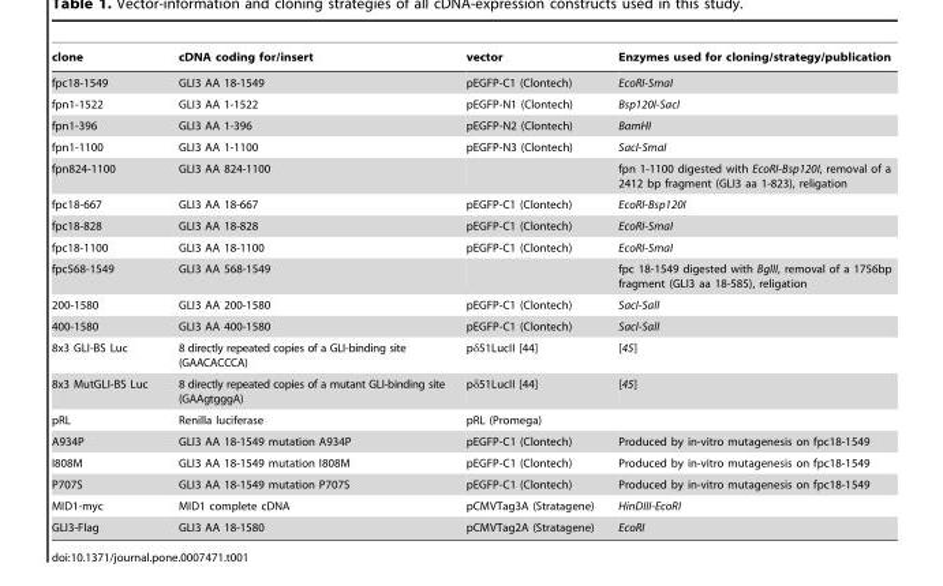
<table><thead><tr><td>clone</td><td>cDNA coding for/insert</td><td>vector</td><td>Enzymes used for cloning/strategy/publication</td></tr></thead><tbody><tr><td>fpc18-1549</td><td>GLI3 AA 18-1549</td><td>pEGFP-C1 (Clontech)</td><td>EcoRI-SmaI</td></tr><tr><td>fpn1-1522</td><td>GLI3 AA 1-1522</td><td>pEGFP-N1 (Clontech)</td><td>Bsp120I-SacI</td></tr><tr><td>fpn1-396</td><td>GLI3 AA 1-396</td><td>pEGFP-N2 (Clontech)</td><td>BamHI</td></tr><tr><td>fpn1-1100</td><td>GLI3 AA 1-1100</td><td>pEGFP-N3 (Clontech)</td><td>SacI-SmaI</td></tr><tr><td>fpn824-1100</td><td>GLI3 AA 824-1100</td><td></td><td>fpn 1-1100 digested with EcoRI-Bsp120I, removal of a 2412 bp fragment (GLI3 aa 1-823), religation</td></tr><tr><td>fpc18-667</td><td>GLI3 AA 18-667</td><td>pEGFP-C1 (Clontech)</td><td>EcoRI-Bsp120I</td></tr><tr><td>fpc18-828</td><td>GLI3 AA 18-828</td><td>pEGFP-C1 (Clontech)</td><td>EcoRI-SmaI</td></tr><tr><td>fpc18-1100</td><td>GLI3 AA 18-1100</td><td>pEGFP-C1 (Clontech)</td><td>EcoRI-SmaI</td></tr><tr><td>fpc568-1549</td><td>GLI3 AA 568-1549</td><td></td><td>fpc 18-1549 digested with BglII, removal of a 1756bp fragment (GLI3 aa 18-585), religation</td></tr><tr><td>200-1580</td><td>GLI3 AA 200-1580</td><td>pEGFP-C1 (Clontech)</td><td>SacI-SalI</td></tr><tr><td>400-1580</td><td>GLI3 AA 400-1580</td><td>pEGFP-C1 (Clontech)</td><td>SacI-SalI</td></tr><tr><td>8x3 GLI-BS Luc</td><td>8 directly repeated copies of a GLI-binding site (GAACACCCA)</td><td>pδ51LucII [44]</td><td>[45]</td></tr><tr><td>8x3 MutGLI-BS Luc</td><td>8 directly repeated copies of a mutant GLI-binding site (GAAgtgggA)</td><td>pδ51LucII [44]</td><td>[45]</td></tr><tr><td>pRL</td><td>Renilla luciferase</td><td>pRL (Promega)</td><td></td></tr><tr><td>A934P</td><td>GLI3 AA 18-1549 mutation A934P</td><td>pEGFP-C1 (Clontech)</td><td>Produced by in-vitro mutagenesis on fpc18-1549</td></tr><tr><td>I808M</td><td>GLI3 AA 18-1549 mutation I808M</td><td>pEGFP-C1 (Clontech)</td><td>Produced by in-vitro mutagenesis on fpc18-1549</td></tr><tr><td>P707S</td><td>GLI3 AA 18-1549 mutation P707S</td><td>pEGFP-C1 (Clontech)</td><td>Produced by in-vitro mutagenesis on fpc18-1549</td></tr><tr><td>MID1-myc</td><td>MID1 complete cDNA</td><td>pCMVTag3A (Stratagene)</td><td>HinDIII-EcoRI</td></tr><tr><td>GLI3-Flag</td><td>GLI3 AA 18-1580</td><td>pCMVTag2A (Stratagene)</td><td>EcoRI</td></tr></tbody></table>